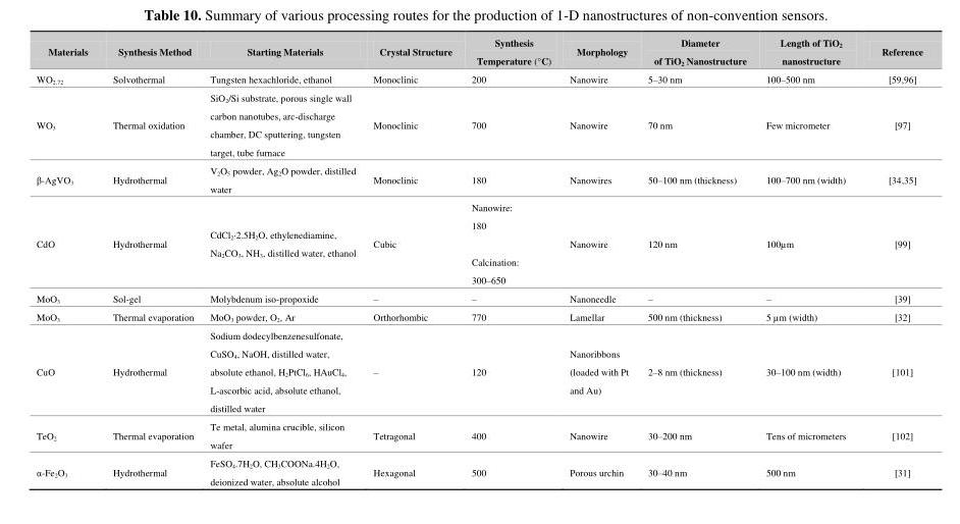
<table><thead><tr><td>Materials</td><td>Synthesis Method</td><td>Starting Materials</td><td>Crystal Structure</td><td>Synthesis Temperature (°C)</td><td>Morphology</td><td>Diameter of TiO<sub>2</sub> Nanostructure</td><td>Length of TiO<sub>2</sub> nanostructure</td><td>Reference</td></tr></thead><tbody><tr><td>WO<sub>2.72</sub></td><td>Solvothermal</td><td>Tungsten hexachloride, ethanol</td><td>Monoclinic</td><td>200</td><td>Nanowire</td><td>5–30 nm</td><td>100–500 nm</td><td>[59,96]</td></tr><tr><td>WO<sub>3</sub></td><td>Thermal oxidation</td><td>SiO<sub>2</sub>/Si substrate, porous single wall carbon nanotubes, arc-discharge chamber, DC sputtering, tungsten target, tube furnace</td><td>Monoclinic</td><td>700</td><td>Nanowire</td><td>70 nm</td><td>Few micrometer</td><td>[97]</td></tr><tr><td>β-AgVO<sub>3</sub></td><td>Hydrothermal</td><td>V<sub>2</sub>O<sub>5</sub> powder, Ag<sub>2</sub>O powder, distilled water</td><td>Monoclinic</td><td>180</td><td>Nanowires</td><td>50–100 nm (thickness)</td><td>100–700 nm (width)</td><td>[34,35]</td></tr><tr><td>CdO</td><td>Hydrothermal</td><td>CdCl<sub>2</sub>·2.5H<sub>2</sub>O, ethylenediamine, Na<sub>2</sub>CO<sub>3</sub>, NH<sub>3</sub>, distilled water, ethanol</td><td>Cubic</td><td>Nanowire: 180 Calcination: 300–650</td><td>Nanowire</td><td>120 nm</td><td>100µm</td><td>[99]</td></tr><tr><td>MoO<sub>3</sub></td><td>Sol-gel</td><td>Molybdenum iso-propoxide</td><td>–</td><td>–</td><td>Nanoneedle</td><td>–</td><td>–</td><td>[39]</td></tr><tr><td>MoO<sub>3</sub></td><td>Thermal evaporation</td><td>MoO<sub>3</sub> powder, O<sub>2</sub>, Ar</td><td>Orthorhombic</td><td>770</td><td>Lamellar</td><td>500 nm (thickness)</td><td>5 µm (width)</td><td>[32]</td></tr><tr><td>CuO</td><td>Hydrothermal</td><td>Sodium dodecylbenzenesulfonate, CuSO<sub>4</sub>, NaOH, distilled water, absolute ethanol, H<sub>2</sub>PtCl<sub>6</sub>, HAuCl<sub>4</sub>, L-ascorbic acid, absolute ethanol, distilled water</td><td>–</td><td>120</td><td>Nanoribbons (loaded with Pt and Au)</td><td>2–8 nm (thickness)</td><td>30–100 nm (width)</td><td>[101]</td></tr><tr><td>TeO<sub>2</sub></td><td>Thermal evaporation</td><td>Te metal, alumina crucible, silicon wafer</td><td>Tetragonal</td><td>400</td><td>Nanowire</td><td>30–200 nm</td><td>Tens of micrometers</td><td>[102]</td></tr><tr><td>α-Fe<sub>2</sub>O<sub>3</sub></td><td>Hydrothermal</td><td>FeSO<sub>4</sub>.7H<sub>2</sub>O, CH<sub>3</sub>COONa.4H<sub>2</sub>O, deionized water, absolute alcohol</td><td>Hexagonal</td><td>500</td><td>Porous urchin</td><td>30–40 nm</td><td>500 nm</td><td>[31]</td></tr></tbody></table>